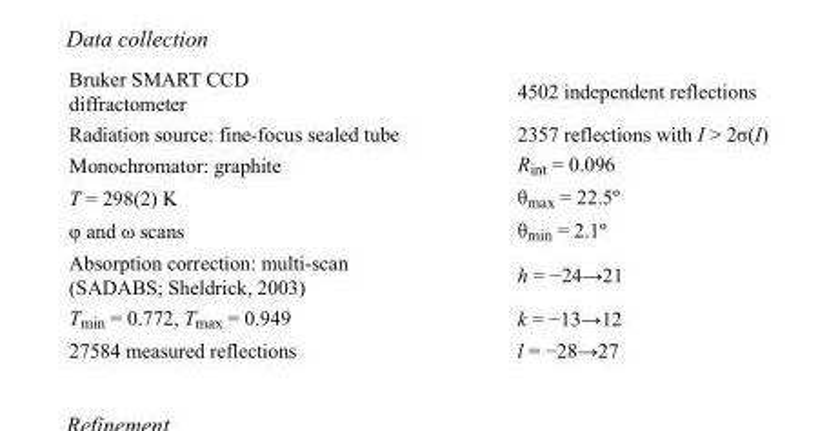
<table><tbody><tr><td>Bruker SMART CCD diffractometer</td><td>4502 independent reflections</td></tr><tr><td>Radiation source: fine-focus sealed tube</td><td>2357 reflections with I &gt; 2σ(I)</td></tr><tr><td>Monochromator: graphite</td><td>R<sub>int</sub> = 0.096</td></tr><tr><td>T = 298(2) K</td><td>θ<sub>max</sub> = 22.5º</td></tr><tr><td>φ and ω scans</td><td>θ<sub>min</sub> = 2.1º</td></tr><tr><td>Absorption correction: multi-scan (SADABS; Sheldrick, 2003)</td><td>h = −24→21</td></tr><tr><td>T<sub>min</sub> = 0.772, T<sub>max</sub> = 0.949</td><td>k = −13→12</td></tr><tr><td>27584 measured reflections</td><td>l = −28→27</td></tr></tbody></table>